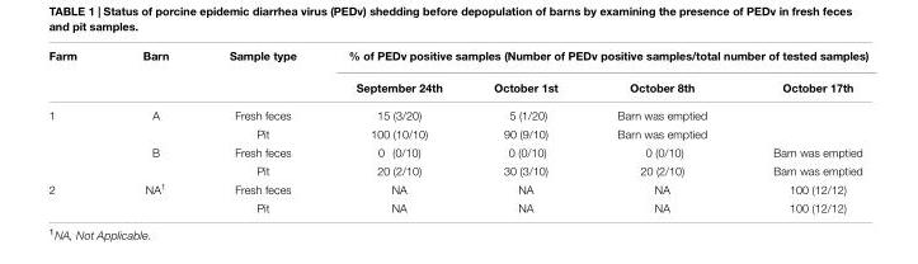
<table><thead><tr><td rowspan="2">Farm</td><td rowspan="2">Barn</td><td rowspan="2">Sample type</td><td colspan="4">% of PEDv positive samples (Number of PEDv positive samples/total number of tested samples)</td></tr><tr><td>September 24th</td><td>October 1st</td><td>October 8th</td><td>October 17th</td></tr></thead><tbody><tr><td rowspan="4">1</td><td>A</td><td>Fresh feces</td><td>15 (3/20)</td><td>5 (1/20)</td><td>Barn was emptied</td><td></td></tr><tr><td></td><td>Pit</td><td>100 (10/10)</td><td>90 (9/10)</td><td>Barn was emptied</td><td></td></tr><tr><td>B</td><td>Fresh feces</td><td>0 (0/10)</td><td>0 (0/10)</td><td>0 (0/10)</td><td>Barn was emptied</td></tr><tr><td></td><td>Pit</td><td>20 (2/10)</td><td>30 (3/10)</td><td>20 (2/10)</td><td>Barn was emptied</td></tr><tr><td rowspan="2">2</td><td>NA<sup>1</sup></td><td>Fresh feces</td><td>NA</td><td>NA</td><td>NA</td><td>100 (12/12)</td></tr><tr><td></td><td>Pit</td><td>NA</td><td>NA</td><td>NA</td><td>100 (12/12)</td></tr></tbody></table>